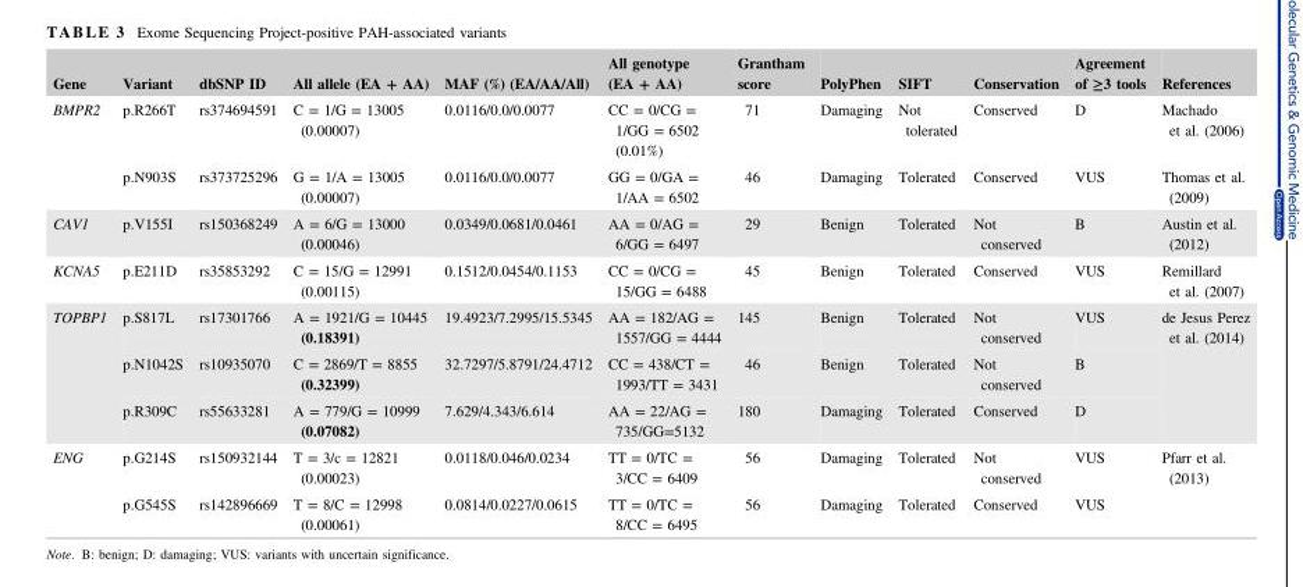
<table><thead><tr><td>Gene</td><td>Variant</td><td>dbSNP ID</td><td>All allele (EA + AA)</td><td>MAF (%) (EA/AA/All)</td><td>All genotype (EA + AA)</td><td>Grantham score</td><td>PolyPhen</td><td>SIFT</td><td>Conservation</td><td>Agreement of ≥3 tools</td><td>References</td></tr></thead><tbody><tr><td rowspan="2">BMPR2</td><td>p.R266T</td><td>rs374694591</td><td>C = 1/G = 13005 (0.00007)</td><td>0.0116/0.0/0.0077</td><td>CC = 0/CG = 1/GG = 6502 (0.01%)</td><td>71</td><td>Damaging</td><td>Not tolerated</td><td>Conserved</td><td>D</td><td>Machado et al. (2006)</td></tr><tr><td>p.N903S</td><td>rs373725296</td><td>G = 1/A = 13005 (0.00007)</td><td>0.0116/0.0/0.0077</td><td>GG = 0/GA = 1/AA = 6502</td><td>46</td><td>Damaging</td><td>Tolerated</td><td>Conserved</td><td>VUS</td><td>Thomas et al. (2009)</td></tr><tr><td>CAV1</td><td>p.V155I</td><td>rs150368249</td><td>A = 6/G = 13000 (0.00046)</td><td>0.0349/0.0681/0.0461</td><td>AA = 0/AG = 6/GG = 6497</td><td>29</td><td>Benign</td><td>Tolerated</td><td>Not conserved</td><td>B</td><td>Austin et al. (2012)</td></tr><tr><td>KCNA5</td><td>p.E211D</td><td>rs35853292</td><td>C = 15/G = 12991 (0.00115)</td><td>0.1512/0.0454/0.1153</td><td>CC = 0/CG = 15/GG = 6488</td><td>45</td><td>Benign</td><td>Tolerated</td><td>Conserved</td><td>VUS</td><td>Remillard et al. (2007)</td></tr><tr><td rowspan="3">TOPBP1</td><td>p.S817L</td><td>rs17301766</td><td>A = 1921/G = 10445 (0.18391)</td><td>19.4923/7.2995/15.5345</td><td>AA = 182/AG = 1557/GG = 4444</td><td>145</td><td>Benign</td><td>Tolerated</td><td>Not conserved</td><td>VUS</td><td rowspan="3">de Jesus Perez et al. (2014)</td></tr><tr><td>p.N1042S</td><td>rs10935070</td><td>C = 2869/T = 8855 (0.32399)</td><td>32.7297/5.8791/24.4712</td><td>CC = 438/CT = 1993/TT = 3431</td><td>46</td><td>Benign</td><td>Tolerated</td><td>Not conserved</td><td>B</td></tr><tr><td>p.R309C</td><td>rs55633281</td><td>A = 779/G = 10999 (0.07082)</td><td>7.629/4.343/6.614</td><td>AA = 22/AG = 735/GG=5132</td><td>180</td><td>Damaging</td><td>Tolerated</td><td>Conserved</td><td>D</td></tr><tr><td rowspan="2">ENG</td><td>p.G214S</td><td>rs150932144</td><td>T = 3/c = 12821 (0.00023)</td><td>0.0118/0.046/0.0234</td><td>TT = 0/TC = 3/CC = 6409</td><td>56</td><td>Damaging</td><td>Tolerated</td><td>Not conserved</td><td>VUS</td><td rowspan="2">Pfarr et al. (2013)</td></tr><tr><td>p.G545S</td><td>rs142896669</td><td>T = 8/C = 12998 (0.00061)</td><td>0.0814/0.0227/0.0615</td><td>TT = 0/TC = 8/CC = 6495</td><td>56</td><td>Damaging</td><td>Tolerated</td><td>Conserved</td><td>VUS</td></tr></tbody></table>